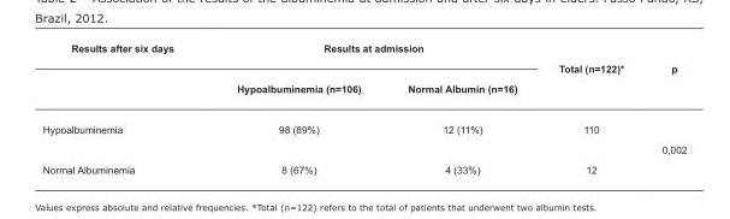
<table><tbody><tr><td rowspan="2">Results after six days</td><td colspan="2">Results at admission</td><td>Total (n=122)*</td><td>p</td></tr><tr><td>Hypoalbuminemia (n=106)</td><td>Normal Albumin (n=16)</td><td></td><td></td></tr><tr><td>Hypoalbuminemia</td><td>98 (89%)</td><td>12 (11%)</td><td>110</td><td rowspan="2">0,002</td></tr><tr><td>Normal Albuminemia</td><td>8 (67%)</td><td>4 (33%)</td><td>12</td></tr></tbody></table>